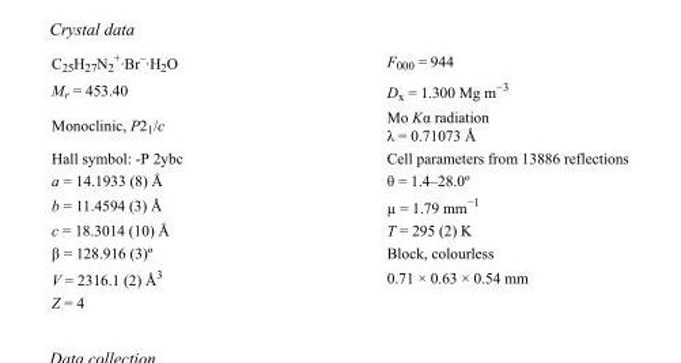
<table><tbody><tr><td>C<sub>25</sub>H<sub>27</sub>N<sub>2</sub> <sup>+</sup>·Br<sup>–</sup>·H<sub>2</sub>O</td><td>F000 = 944</td></tr><tr><td>M<sub>r</sub> = 453.40</td><td>D<sub>x</sub> = 1.300 Mg m<sup>−3</sup></td></tr><tr><td>Monoclinic, P2<sub>1</sub>/c</td><td>Mo Kα radiation λ = 0.71073 Å</td></tr><tr><td>Hall symbol: -P 2ybc</td><td>Cell parameters from 13886 reflections</td></tr><tr><td>a = 14.1933 (8) Å</td><td>θ = 1.4–28.0º</td></tr><tr><td>b = 11.4594 (3) Å</td><td>µ = 1.79 mm<sup>−1</sup></td></tr><tr><td>c = 18.3014 (10) Å</td><td>T = 295 (2) K</td></tr><tr><td>β = 128.916 (3)º</td><td>Block, colourless</td></tr><tr><td>V = 2316.1 (2) Å<sup>3</sup></td><td>0.71 × 0.63 × 0.54 mm</td></tr><tr><td>Z = 4</td><td></td></tr></tbody></table>